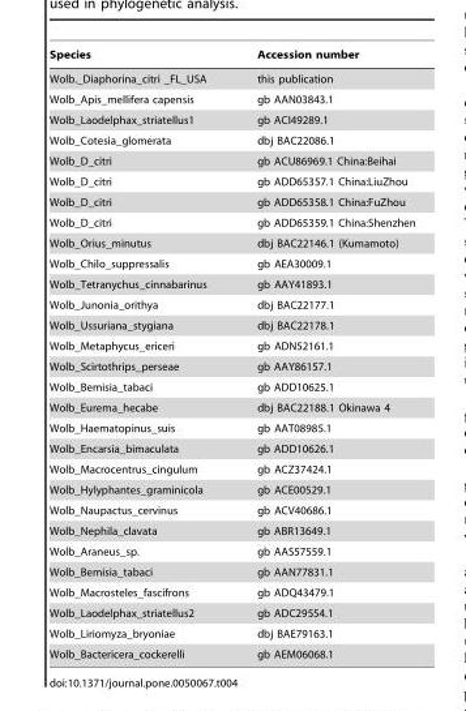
<table><thead><tr><td>Species</td><td>Accession number</td></tr></thead><tbody><tr><td>Wolb._Diaphorina_citri _FL_USA</td><td>this publication</td></tr><tr><td>Wolb_Apis_mellifera capensis</td><td>gb AAN03843.1</td></tr><tr><td>Wolb_Laodelphax_striatellus1</td><td>gb ACI49289.1</td></tr><tr><td>Wolb_Cotesia_glomerata</td><td>dbj BAC22086.1</td></tr><tr><td>Wolb_D_citri</td><td>gb ACU86969.1 China:Beihai</td></tr><tr><td>Wolb_D_citri</td><td>gb ADD65357.1 China:LiuZhou</td></tr><tr><td>Wolb_D_citri</td><td>gb ADD65358.1 China:FuZhou</td></tr><tr><td>Wolb_D_citri</td><td>gb ADD65359.1 China:Shenzhen</td></tr><tr><td>Wolb_Orius_minutus</td><td>dbj BAC22146.1 (Kumamoto)</td></tr><tr><td>Wolb_Chilo_suppressalis</td><td>gb AEA30009.1</td></tr><tr><td>Wolb_Tetranychus_cinnabarinus</td><td>gb AAY41893.1</td></tr><tr><td>Wolb_Junonia_orithya</td><td>dbj BAC22177.1</td></tr><tr><td>Wolb_Ussuriana_stygiana</td><td>dbj BAC22178.1</td></tr><tr><td>Wolb_Metaphycus_ericeri</td><td>gb ADN52161.1</td></tr><tr><td>Wolb_Scirtothrips_perseae</td><td>gb AAY86157.1</td></tr><tr><td>Wolb_Bemisia_tabaci</td><td>gb ADD10625.1</td></tr><tr><td>Wolb_Eurema_hecabe</td><td>dbj BAC22188.1 Okinawa 4</td></tr><tr><td>Wolb_Haematopinus_suis</td><td>gb AAT08985.1</td></tr><tr><td>Wolb_Encarsia_bimaculata</td><td>gb ADD10626.1</td></tr><tr><td>Wolb_Macrocentrus_cingulum</td><td>gb ACZ37424.1</td></tr><tr><td>Wolb_Hylyphantes_graminicola</td><td>gb ACE00529.1</td></tr><tr><td>Wolb_Naupactus_cervinus</td><td>gb ACV40686.1</td></tr><tr><td>Wolb_Nephila_clavata</td><td>gb ABR13649.1</td></tr><tr><td>Wolb_Araneus_sp.</td><td>gb AAS57559.1</td></tr><tr><td>Wolb_Bemisia_tabaci</td><td>gb AAN77831.1</td></tr><tr><td>Wolb_Macrosteles_fascifrons</td><td>gb ADQ43479.1</td></tr><tr><td>Wolb_Laodelphax_striatellus2</td><td>gb ADC29554.1</td></tr><tr><td>Wolb_Liriomyza_bryoniae</td><td>dbj BAE79163.1</td></tr><tr><td>Wolb_Bactericera_cockerelli</td><td>gb AEM06068.1</td></tr></tbody></table>